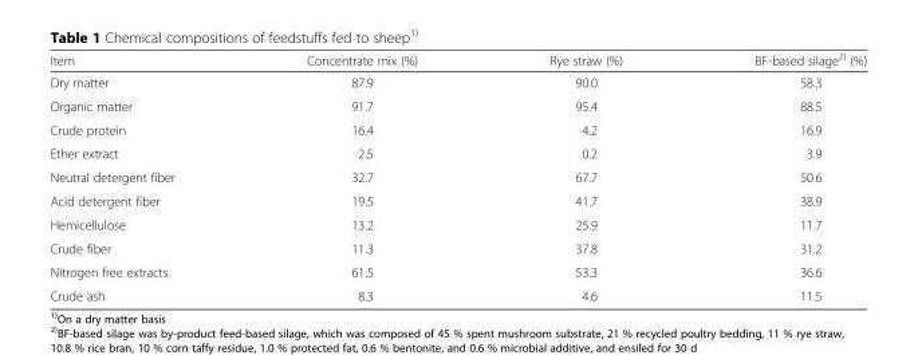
<table><thead><tr><td>Item</td><td>Concentrate mix (%)</td><td>Rye straw (%)</td><td>BF-based silage<sup>2)</sup> (%)</td></tr></thead><tbody><tr><td>Dry matter</td><td>87.9</td><td>90.0</td><td>58.3</td></tr><tr><td>Organic matter</td><td>91.7</td><td>95.4</td><td>88.5</td></tr><tr><td>Crude protein</td><td>16.4</td><td>4.2</td><td>16.9</td></tr><tr><td>Ether extract</td><td>2.5</td><td>0.2</td><td>3.9</td></tr><tr><td>Neutral detergent fiber</td><td>32.7</td><td>67.7</td><td>50.6</td></tr><tr><td>Acid detergent fiber</td><td>19.5</td><td>41.7</td><td>38.9</td></tr><tr><td>Hemicellulose</td><td>13.2</td><td>25.9</td><td>11.7</td></tr><tr><td>Crude fiber</td><td>11.3</td><td>37.8</td><td>31.2</td></tr><tr><td>Nitrogen free extracts</td><td>61.5</td><td>53.3</td><td>36.6</td></tr><tr><td>Crude ash</td><td>8.3</td><td>4.6</td><td>11.5</td></tr></tbody></table>